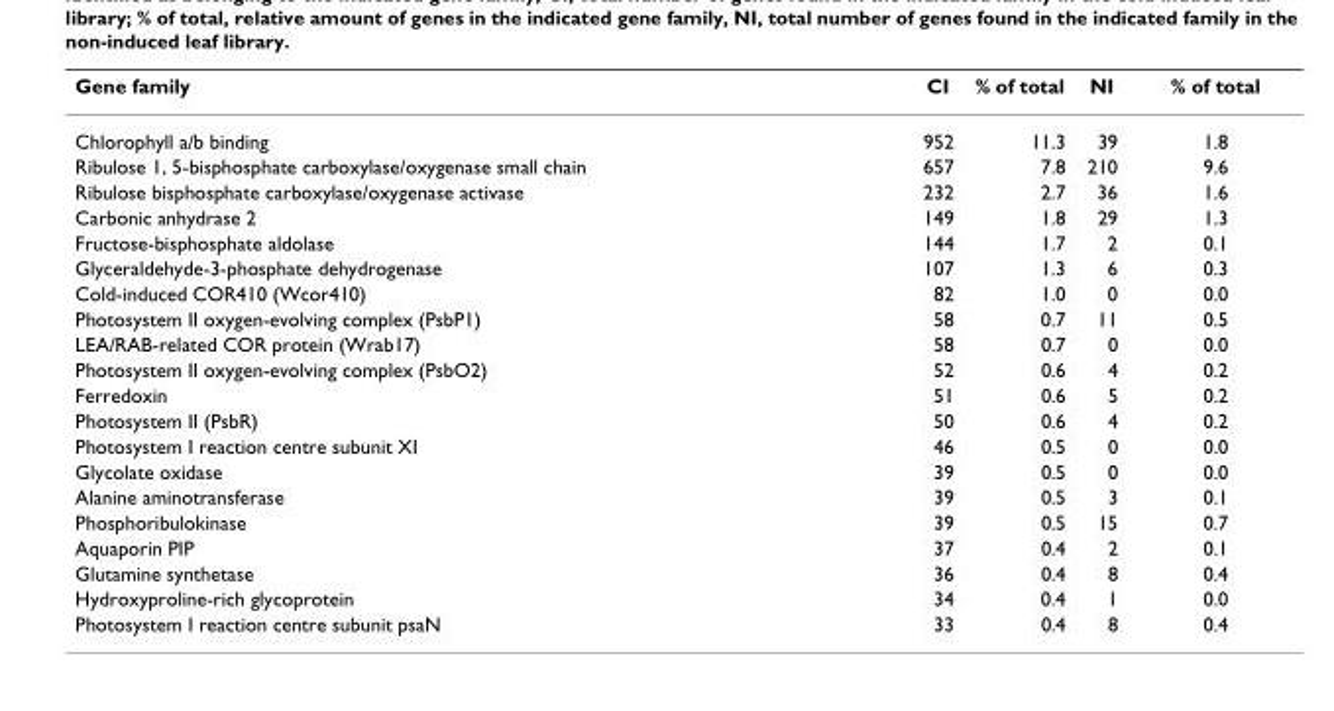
<table><thead><tr><td>Gene family</td><td>CI</td><td>% of total</td><td>NI</td><td>% of total</td></tr></thead><tbody><tr><td>Chlorophyll a/b binding</td><td>952</td><td>11.3</td><td>39</td><td>1.8</td></tr><tr><td>Ribulose 1, 5-bisphosphate carboxylase/oxygenase small chain</td><td>657</td><td>7.8</td><td>210</td><td>9.6</td></tr><tr><td>Ribulose bisphosphate carboxylase/oxygenase activase</td><td>232</td><td>2.7</td><td>36</td><td>1.6</td></tr><tr><td>Carbonic anhydrase 2</td><td>149</td><td>1.8</td><td>29</td><td>1.3</td></tr><tr><td>Fructose-bisphosphate aldolase</td><td>144</td><td>1.7</td><td>2</td><td>0.1</td></tr><tr><td>Glyceraldehyde-3-phosphate dehydrogenase</td><td>107</td><td>1.3</td><td>6</td><td>0.3</td></tr><tr><td>Cold-induced COR410 (Wcor410)</td><td>82</td><td>1.0</td><td>0</td><td>0.0</td></tr><tr><td>Photosystem II oxygen-evolving complex (PsbP1)</td><td>58</td><td>0.7</td><td>11</td><td>0.5</td></tr><tr><td>LEA/RAB-related COR protein (Wrab17)</td><td>58</td><td>0.7</td><td>0</td><td>0.0</td></tr><tr><td>Photosystem II oxygen-evolving complex (PsbO2)</td><td>52</td><td>0.6</td><td>4</td><td>0.2</td></tr><tr><td>Ferredoxin</td><td>51</td><td>0.6</td><td>5</td><td>0.2</td></tr><tr><td>Photosystem II (PsbR)</td><td>50</td><td>0.6</td><td>4</td><td>0.2</td></tr><tr><td>Photosystem I reaction centre subunit XI</td><td>46</td><td>0.5</td><td>0</td><td>0.0</td></tr><tr><td>Glycolate oxidase</td><td>39</td><td>0.5</td><td>0</td><td>0.0</td></tr><tr><td>Alanine aminotransferase</td><td>39</td><td>0.5</td><td>3</td><td>0.1</td></tr><tr><td>Phosphoribulokinase</td><td>39</td><td>0.5</td><td>15</td><td>0.7</td></tr><tr><td>Aquaporin PIP</td><td>37</td><td>0.4</td><td>2</td><td>0.1</td></tr><tr><td>Glutamine synthetase</td><td>36</td><td>0.4</td><td>8</td><td>0.4</td></tr><tr><td>Hydroxyproline-rich glycoprotein</td><td>34</td><td>0.4</td><td>1</td><td>0.0</td></tr><tr><td>Photosystem I reaction centre subunit psaN</td><td>33</td><td>0.4</td><td>8</td><td>0.4</td></tr></tbody></table>